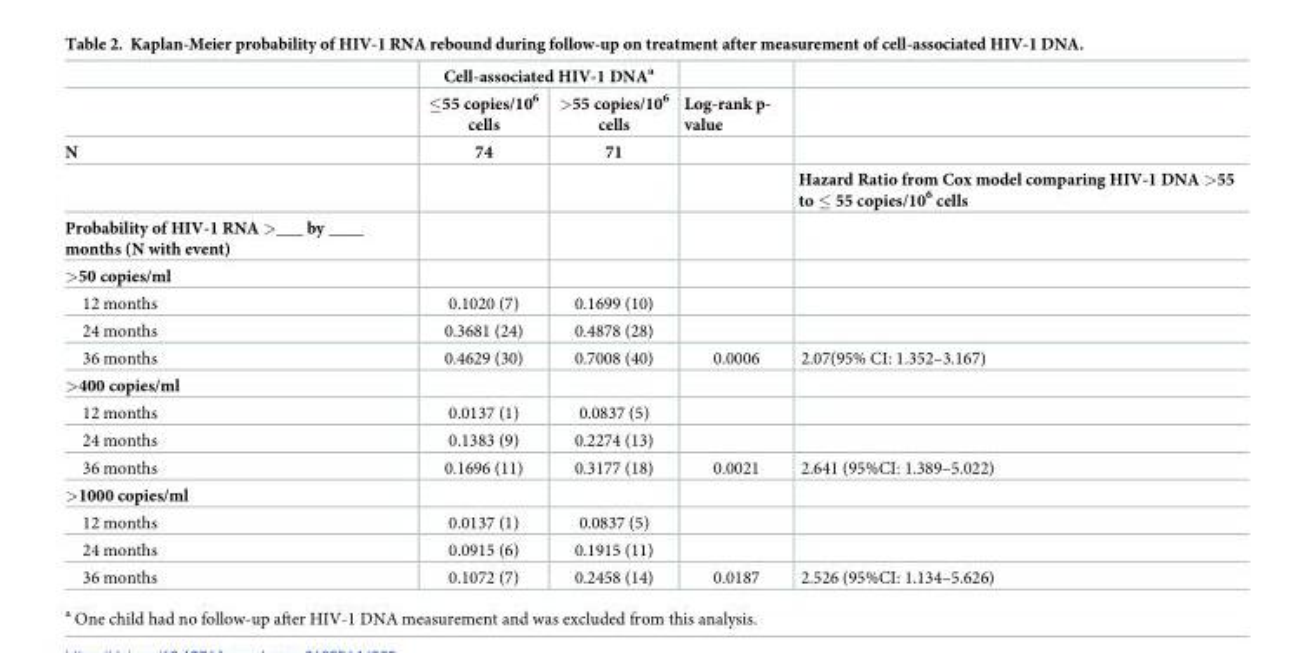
<table><thead><tr><td rowspan="5">N Probability of HIV-1 RNA &gt;___ by ____ months (N with event)</td><td colspan="2">Cell-associated HIV-1 DNA<sup>a</sup></td><td rowspan="5">Log-rank p- value</td><td rowspan="5">Hazard Ratio from Cox model comparing HIV-1 DNA &gt;55 to ≤ 55 copies/10<sup>6</sup> cells</td></tr><tr><td rowspan="4">≤55 copies/10<sup>6</sup> cells 74</td><td rowspan="4">&gt;55 copies/10<sup>6</sup> cells 71</td></tr><tr></tr><tr></tr><tr></tr></thead><tbody><tr><td colspan="5">&gt;50 copies/ml</td></tr><tr><td>12 months</td><td>0.1020 (7)</td><td>0.1699 (10)</td><td></td><td></td></tr><tr><td>24 months</td><td>0.3681 (24)</td><td>0.4878 (28)</td><td></td><td></td></tr><tr><td>36 months</td><td>0.4629 (30)</td><td>0.7008 (40)</td><td>0.0006</td><td>2.07(95% CI: 1.352–3.167)</td></tr><tr><td colspan="5">&gt;400 copies/ml</td></tr><tr><td>12 months</td><td>0.0137 (1)</td><td>0.0837 (5)</td><td></td><td></td></tr><tr><td>24 months</td><td>0.1383 (9)</td><td>0.2274 (13)</td><td></td><td></td></tr><tr><td>36 months</td><td>0.1696 (11)</td><td>0.3177 (18)</td><td>0.0021</td><td>2.641 (95%CI: 1.389–5.022)</td></tr><tr><td colspan="5">&gt;1000 copies/ml</td></tr><tr><td>12 months</td><td>0.0137 (1)</td><td>0.0837 (5)</td><td></td><td></td></tr><tr><td>24 months</td><td>0.0915 (6)</td><td>0.1915 (11)</td><td></td><td></td></tr><tr><td>36 months</td><td>0.1072 (7)</td><td>0.2458 (14)</td><td>0.0187</td><td>2.526 (95%CI: 1.134–5.626)</td></tr></tbody></table>